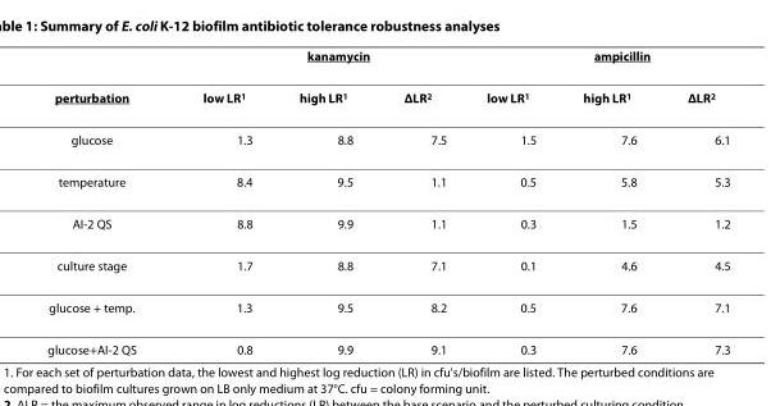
<table><thead><tr><td rowspan="2">perturbation</td><td colspan="3">kanamycin</td><td colspan="3">ampicillin</td></tr><tr><td>low LR<sup>1</sup></td><td>high LR<sup>1</sup></td><td>ΔLR<sup>2</sup></td><td>low LR<sup>1</sup></td><td>high LR<sup>1</sup></td><td>ΔLR<sup>2</sup></td></tr></thead><tbody><tr><td>glucose</td><td>1.3</td><td>8.8</td><td>7.5</td><td>1.5</td><td>7.6</td><td>6.1</td></tr><tr><td>temperature</td><td>8.4</td><td>9.5</td><td>1.1</td><td>0.5</td><td>5.8</td><td>5.3</td></tr><tr><td>AI-2 QS</td><td>8.8</td><td>9.9</td><td>1.1</td><td>0.3</td><td>1.5</td><td>1.2</td></tr><tr><td>culture stage</td><td>1.7</td><td>8.8</td><td>7.1</td><td>0.1</td><td>4.6</td><td>4.5</td></tr><tr><td>glucose + temp.</td><td>1.3</td><td>9.5</td><td>8.2</td><td>0.5</td><td>7.6</td><td>7.1</td></tr><tr><td>glucose+AI-2 QS</td><td>0.8</td><td>9.9</td><td>9.1</td><td>0.3</td><td>7.6</td><td>7.3</td></tr></tbody></table>